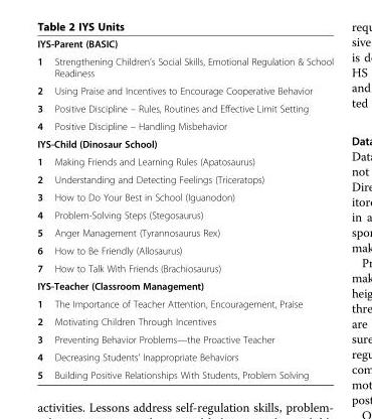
<table><tbody><tr><td colspan="2">IYS-Parent (BASIC)</td></tr><tr><td>1</td><td>Strengthening Children’s Social Skills, Emotional Regulation &amp; School Readiness</td></tr><tr><td>2</td><td>Using Praise and Incentives to Encourage Cooperative Behavior</td></tr><tr><td>3</td><td>Positive Discipline – Rules, Routines and Effective Limit Setting</td></tr><tr><td>4</td><td>Positive Discipline – Handling Misbehavior</td></tr><tr><td colspan="2">IYS-Child (Dinosaur School)</td></tr><tr><td>1</td><td>Making Friends and Learning Rules (Apatosaurus)</td></tr><tr><td>2</td><td>Understanding and Detecting Feelings (Triceratops)</td></tr><tr><td>3</td><td>How to Do Your Best in School (Iguanodon)</td></tr><tr><td>4</td><td>Problem-Solving Steps (Stegosaurus)</td></tr><tr><td>5</td><td>Anger Management (Tyrannosaurus Rex)</td></tr><tr><td>6</td><td>How to Be Friendly (Allosaurus)</td></tr><tr><td>7</td><td>How to Talk With Friends (Brachiosaurus)</td></tr><tr><td colspan="2">IYS-Teacher (Classroom Management)</td></tr><tr><td>1</td><td>The Importance of Teacher Attention, Encouragement, Praise</td></tr><tr><td>2</td><td>Motivating Children Through Incentives</td></tr><tr><td>3</td><td>Preventing Behavior Problems—the Proactive Teacher</td></tr><tr><td>4</td><td>Decreasing Students’ Inappropriate Behaviors</td></tr><tr><td>5</td><td>Building Positive Relationships With Students, Problem Solving</td></tr></tbody></table>